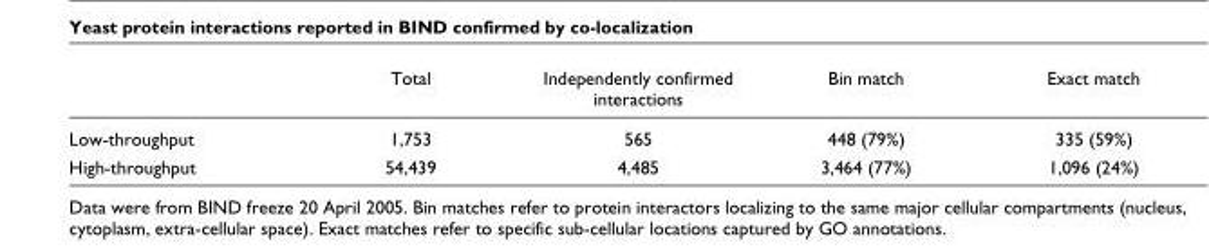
<table><thead><tr><td></td><td>Total</td><td>Independently confirmed interactions</td><td>Bin match</td><td>Exact match</td></tr></thead><tbody><tr><td>Low-throughput</td><td>1,753</td><td>565</td><td>448 (79%)</td><td>335 (59%)</td></tr><tr><td>High-throughput</td><td>54,439</td><td>4,485</td><td>3,464 (77%)</td><td>1,096 (24%)</td></tr></tbody></table>